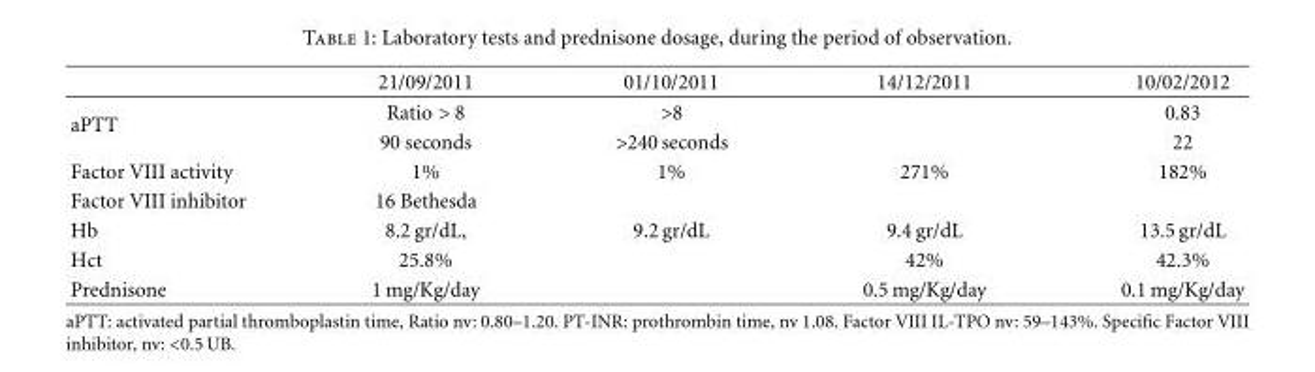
<table><thead><tr><td></td><td>21/09/2011</td><td>01/10/2011</td><td>14/12/2011</td><td>10/02/2012</td></tr></thead><tbody><tr><td rowspan="2">aPTT</td><td>Ratio &gt; 8</td><td>&gt;8</td><td></td><td>0.83</td></tr><tr><td>90 seconds</td><td>&gt;240 seconds</td><td></td><td>22</td></tr><tr><td>Factor VIII activity</td><td>1%</td><td>1%</td><td>271%</td><td>182%</td></tr><tr><td>Factor VIII inhibitor</td><td>16 Bethesda</td><td></td><td></td><td></td></tr><tr><td>Hb</td><td>8.2 gr/dL,</td><td>9.2 gr/dL</td><td>9.4 gr/dL</td><td>13.5 gr/dL</td></tr><tr><td>Hct</td><td>25.8%</td><td></td><td>42%</td><td>42.3%</td></tr><tr><td>Prednisone</td><td>1 mg/Kg/day</td><td></td><td>0.5 mg/Kg/day</td><td>0.1 mg/Kg/day</td></tr></tbody></table>